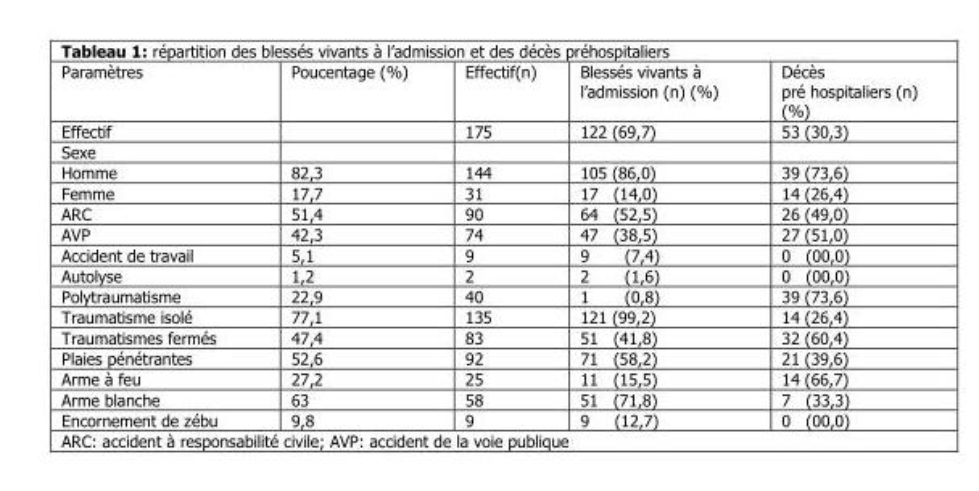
<table><thead><tr><td>Paramètres</td><td>Poucentage (%)</td><td>Effectif(n)</td><td>Blessés vivants à l’admission (n) (%)</td><td>Décès pré hospitaliers (n) (%)</td></tr></thead><tbody><tr><td>Effectif</td><td></td><td>175</td><td>122 (69,7)</td><td>53 (30,3)</td></tr><tr><td colspan="5">Sexe</td></tr><tr><td>Homme</td><td>82,3</td><td>144</td><td>105 (86,0)</td><td>39 (73,6)</td></tr><tr><td>Femme</td><td>17,7</td><td>31</td><td>17 (14,0)</td><td>14 (26,4)</td></tr><tr><td>ARC</td><td>51,4</td><td>90</td><td>64 (52,5)</td><td>26 (49,0)</td></tr><tr><td>AVP</td><td>42,3</td><td>74</td><td>47 (38,5)</td><td>27 (51,0)</td></tr><tr><td>Accident de travail</td><td>5,1</td><td>9</td><td>9 (7,4)</td><td>0 (00,0)</td></tr><tr><td>Autolyse</td><td>1,2</td><td>2</td><td>2 (1,6)</td><td>0 (00,0)</td></tr><tr><td>Polytraumatisme</td><td>22,9</td><td>40</td><td>1 (0,8)</td><td>39 (73,6)</td></tr><tr><td>Traumatisme isolé</td><td>77,1</td><td>135</td><td>121 (99,2)</td><td>14 (26,4)</td></tr><tr><td>Traumatismes fermés</td><td>47,4</td><td>83</td><td>51 (41,8)</td><td>32 (60,4)</td></tr><tr><td>Plaies pénétrantes</td><td>52,6</td><td>92</td><td>71 (58,2)</td><td>21 (39,6)</td></tr><tr><td>Arme à feu</td><td>27,2</td><td>25</td><td>11 (15,5)</td><td>14 (66,7)</td></tr><tr><td>Arme blanche</td><td>63</td><td>58</td><td>51 (71,8)</td><td>7 (33,3)</td></tr><tr><td>Encornement de zébu</td><td>9,8</td><td>9</td><td>9 (12,7)</td><td>0 (00,0)</td></tr></tbody></table>